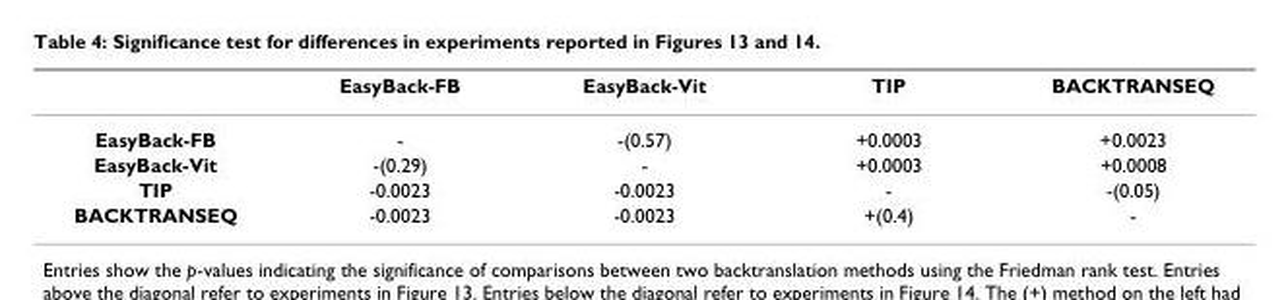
<table><thead><tr><td></td><td>EasyBack-FB</td><td>EasyBack-Vit</td><td>TIP</td><td>BACKTRANSEQ</td></tr></thead><tbody><tr><td>EasyBack-FB</td><td>-</td><td>-(0.57)</td><td>+0.0003</td><td>+0.0023</td></tr><tr><td>EasyBack-Vit</td><td>-(0.29)</td><td>-</td><td>+0.0003</td><td>+0.0008</td></tr><tr><td>TIP</td><td>-0.0023</td><td>-0.0023</td><td>-</td><td>-(0.05)</td></tr><tr><td>BACKTRANSEQ</td><td>-0.0023</td><td>-0.0023</td><td>+(0.4)</td><td>-</td></tr></tbody></table>